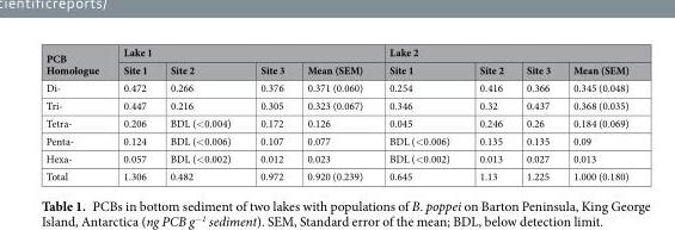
<table><thead><tr><td rowspan="2">PCB Homologue</td><td colspan="4">Lake 1</td><td colspan="4">Lake 2</td></tr><tr><td>Site 1</td><td>Site 2</td><td>Site 3</td><td>Mean (SEM)</td><td>Site 1</td><td>Site 2</td><td>Site 3</td><td>Mean (SEM)</td></tr></thead><tbody><tr><td>Di-</td><td>0.472</td><td>0.266</td><td>0.376</td><td>0.371 (0.060)</td><td>0.254</td><td>0.416</td><td>0.366</td><td>0.345 (0.048)</td></tr><tr><td>Tri-</td><td>0.447</td><td>0.216</td><td>0.305</td><td>0.323 (0.067)</td><td>0.346</td><td>0.32</td><td>0.437</td><td>0.368 (0.035)</td></tr><tr><td>Tetra-</td><td>0.206</td><td>BDL (&lt;0.004)</td><td>0.172</td><td>0.126</td><td>0.045</td><td>0.246</td><td>0.26</td><td>0.184 (0.069)</td></tr><tr><td>Penta-</td><td>0.124</td><td>BDL (&lt;0.006)</td><td>0.107</td><td>0.077</td><td>BDL (&lt;0.006)</td><td>0.135</td><td>0.135</td><td>0.09</td></tr><tr><td>Hexa-</td><td>0.057</td><td>BDL (&lt;0.002)</td><td>0.012</td><td>0.023</td><td>BDL (&lt;0.002)</td><td>0.013</td><td>0.027</td><td>0.013</td></tr><tr><td>Total</td><td>1.306</td><td>0.482</td><td>0.972</td><td>0.920 (0.239)</td><td>0.645</td><td>1.13</td><td>1.225</td><td>1.000 (0.180)</td></tr></tbody></table>